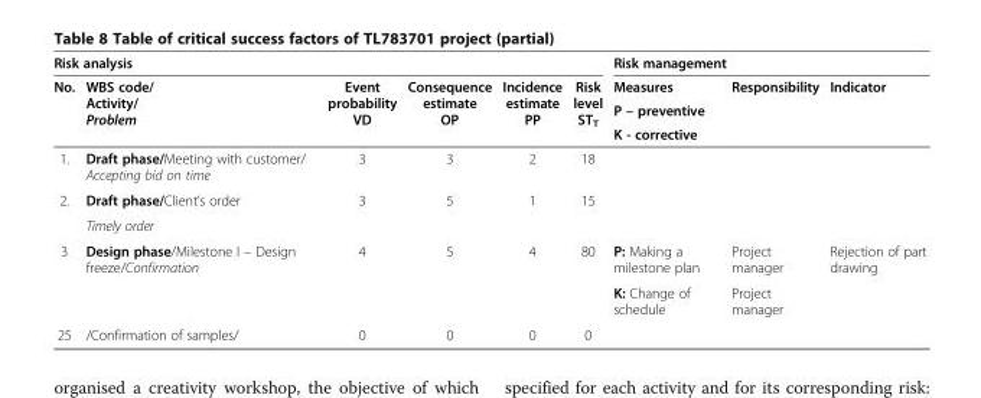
<table><thead><tr><td colspan="6">Risk analysis</td><td colspan="3">Risk management</td></tr><tr><td rowspan="3">No.</td><td rowspan="3">WBS code/ Activity/ Problem</td><td rowspan="3">Event probability VD</td><td rowspan="3">Consequence estimate OP</td><td rowspan="3">Incidence estimate PP</td><td rowspan="3">Risk level ST<sub>T</sub></td><td rowspan="3">Measures P – preventive K - corrective</td><td rowspan="3">Responsibility</td><td rowspan="3">Indicator</td></tr><tr></tr><tr></tr></thead><tbody><tr><td>1.</td><td>Draft phase/Meeting with customer/ Accepting bid on time</td><td>3</td><td>3</td><td>2</td><td>18</td><td></td><td></td><td></td></tr><tr><td rowspan="2">2.</td><td>Draft phase/Client’s order</td><td rowspan="2">3</td><td rowspan="2">5</td><td rowspan="2">1</td><td rowspan="2">15</td><td rowspan="2"></td><td rowspan="2"></td><td rowspan="2"></td></tr><tr><td>Timely order</td></tr><tr><td rowspan="2">3</td><td rowspan="2">Design phase/Milestone I – Design freeze/Confirmation</td><td rowspan="2">4</td><td rowspan="2">5</td><td rowspan="2">4</td><td rowspan="2">80</td><td>P: Making a milestone plan</td><td>Project manager</td><td rowspan="2">Rejection of part drawing</td></tr><tr><td>K: Change of schedule</td><td>Project manager</td></tr><tr><td>25</td><td>/Confirmation of samples/</td><td>0</td><td>0</td><td>0</td><td>0</td><td></td><td></td><td></td></tr></tbody></table>